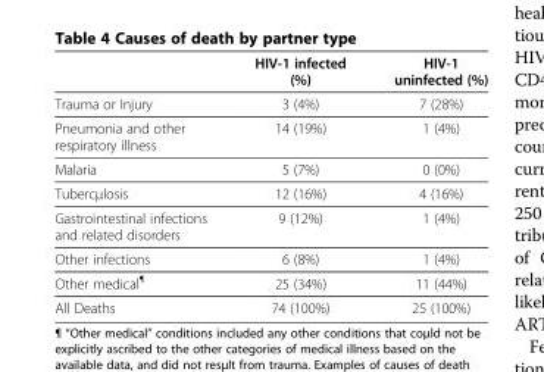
<table><thead><tr><td></td><td>HIV-1 infected (%)</td><td>HIV-1 uninfected (%)</td></tr></thead><tbody><tr><td>Trauma or Injury</td><td>3 (4%)</td><td>7 (28%)</td></tr><tr><td>Pneumonia and other respiratory illness</td><td>14 (19%)</td><td>1 (4%)</td></tr><tr><td>Malaria</td><td>5 (7%)</td><td>0 (0%)</td></tr><tr><td>Tubercμlosis</td><td>12 (16%)</td><td>4 (16%)</td></tr><tr><td>Gastrointestinal infections and related disorders</td><td>9 (12%)</td><td>1 (4%)</td></tr><tr><td>Other infections</td><td>6 (8%)</td><td>1 (4%)</td></tr><tr><td>Other medical<sup>¶</sup></td><td>25 (34%)</td><td>11 (44%)</td></tr><tr><td>All Deaths</td><td>74 (100%)</td><td>25 (100%)</td></tr></tbody></table>